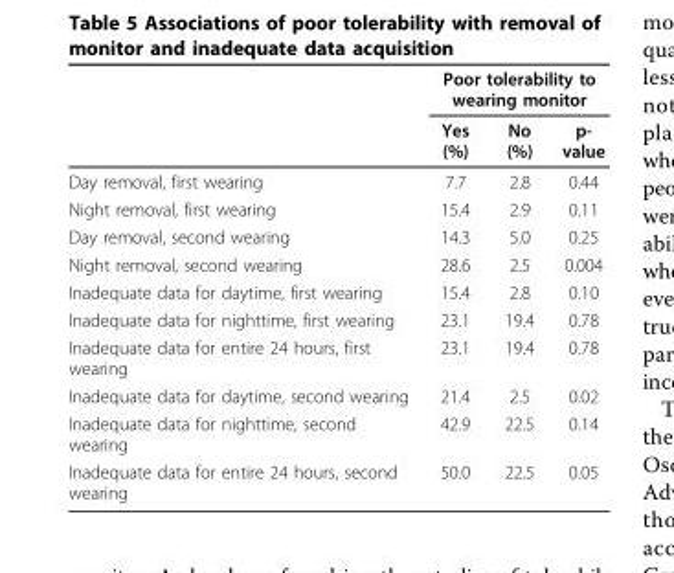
<table><thead><tr><td rowspan="2"></td><td colspan="3">Poor tolerability to wearing monitor</td></tr><tr><td>Yes (%)</td><td>No (%)</td><td>p- value</td></tr></thead><tbody><tr><td>Day removal, first wearing</td><td>7.7</td><td>2.8</td><td>0.44</td></tr><tr><td>Night removal, first wearing</td><td>15.4</td><td>2.9</td><td>0.11</td></tr><tr><td>Day removal, second wearing</td><td>14.3</td><td>5.0</td><td>0.25</td></tr><tr><td>Night removal, second wearing</td><td>28.6</td><td>2.5</td><td>0.004</td></tr><tr><td>Inadequate data for daytime, first wearing</td><td>15.4</td><td>2.8</td><td>0.10</td></tr><tr><td>Inadequate data for nighttime, first wearing</td><td>23.1</td><td>19.4</td><td>0.78</td></tr><tr><td>Inadequate data for entire 24 hours, first wearing</td><td>23.1</td><td>19.4</td><td>0.78</td></tr><tr><td>Inadequate data for daytime, second wearing</td><td>21.4</td><td>2.5</td><td>0.02</td></tr><tr><td>Inadequate data for nighttime, second wearing</td><td>42.9</td><td>22.5</td><td>0.14</td></tr><tr><td>Inadequate data for entire 24 hours, second wearing</td><td>50.0</td><td>22.5</td><td>0.05</td></tr></tbody></table>